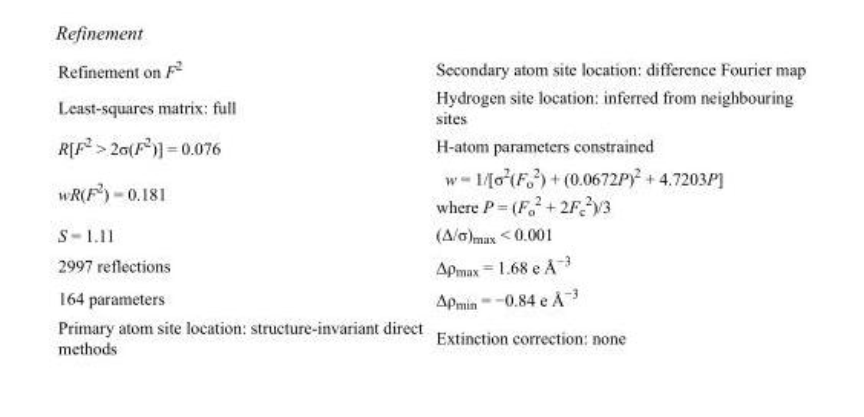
<table><tbody><tr><td>Refinement on F<sup>2</sup></td><td>Secondary atom site location: difference Fourier map</td></tr><tr><td>Least-squares matrix: full</td><td>Hydrogen site location: inferred from neighbouring sites</td></tr><tr><td>R[F<sup>2</sup> &gt; 2σ(F<sup>2</sup>)] = 0.076</td><td>H-atom parameters constrained</td></tr><tr><td>wR(F<sup>2</sup>) = 0.181</td><td>w = 1/[σ<sup>2</sup>(F<sub>o</sub> <sup>2</sup>) + (0.0672P)<sup>2</sup> + 4.7203P] where P = (F<sub>o</sub> <sup>2</sup> + 2F<sub>c</sub> <sup>2</sup>)/3</td></tr><tr><td>S = 1.11</td><td>(Δ/σ)<sub>max</sub> &lt; 0.001</td></tr><tr><td>2997 reflections</td><td>Δρ<sub>max</sub> = 1.68 e Å<sup>−3</sup></td></tr><tr><td>164 parameters</td><td>Δρ<sub>min</sub> = −0.84 e Å<sup>−3</sup></td></tr><tr><td>Primary atom site location: structure-invariant direct methods</td><td>Extinction correction: none</td></tr></tbody></table>